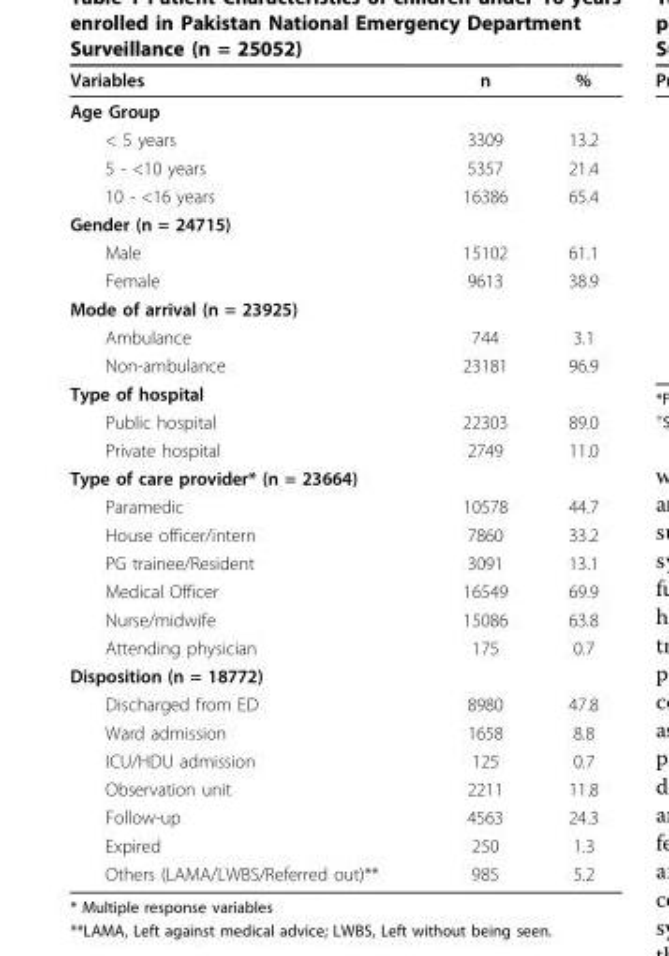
<table><thead><tr><td>Variables</td><td>n</td><td>%</td></tr></thead><tbody><tr><td colspan="3">Age Group</td></tr><tr><td>&lt; 5 years</td><td>3309</td><td>13.2</td></tr><tr><td>5 - &lt;10 years</td><td>5357</td><td>21.4</td></tr><tr><td>10 - &lt;16 years</td><td>16386</td><td>65.4</td></tr><tr><td colspan="3">Gender (n = 24715)</td></tr><tr><td>Male</td><td>15102</td><td>61.1</td></tr><tr><td>Female</td><td>9613</td><td>38.9</td></tr><tr><td colspan="3">Mode of arrival (n = 23925)</td></tr><tr><td>Ambulance</td><td>744</td><td>3.1</td></tr><tr><td>Non-ambulance</td><td>23181</td><td>96.9</td></tr><tr><td colspan="3">Type of hospital</td></tr><tr><td>Public hospital</td><td>22303</td><td>89.0</td></tr><tr><td>Private hospital</td><td>2749</td><td>11.0</td></tr><tr><td colspan="3">Type of care provider* (n = 23664)</td></tr><tr><td>Paramedic</td><td>10578</td><td>44.7</td></tr><tr><td>House officer/intern</td><td>7860</td><td>33.2</td></tr><tr><td>PG trainee/Resident</td><td>3091</td><td>13.1</td></tr><tr><td>Medical Officer</td><td>16549</td><td>69.9</td></tr><tr><td>Nurse/midwife</td><td>15086</td><td>63.8</td></tr><tr><td>Attending physician</td><td>175</td><td>0.7</td></tr><tr><td colspan="3">Disposition (n = 18772)</td></tr><tr><td>Discharged from ED</td><td>8980</td><td>47.8</td></tr><tr><td>Ward admission</td><td>1658</td><td>8.8</td></tr><tr><td>ICU/HDU admission</td><td>125</td><td>0.7</td></tr><tr><td>Observation unit</td><td>2211</td><td>11.8</td></tr><tr><td>Follow-up</td><td>4563</td><td>24.3</td></tr><tr><td>Expired</td><td>250</td><td>1.3</td></tr><tr><td>Others (LAMA/LWBS/Referred out)**</td><td>985</td><td>5.2</td></tr></tbody></table>